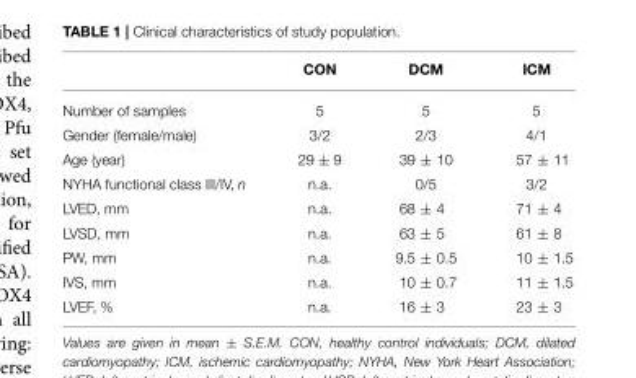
<table><thead><tr><td></td><td>CON</td><td>DCM</td><td>ICM</td></tr></thead><tbody><tr><td>Number of samples</td><td>5</td><td>5</td><td>5</td></tr><tr><td>Gender (female/male)</td><td>3/2</td><td>2/3</td><td>4/1</td></tr><tr><td>Age (year)</td><td>29 ± 9</td><td>39 ± 10</td><td>57 ± 11</td></tr><tr><td>NYHA functional class III/IV, n</td><td>n.a.</td><td>0/5</td><td>3/2</td></tr><tr><td>LVED, mm</td><td>n.a.</td><td>68 ± 4</td><td>71 ± 4</td></tr><tr><td>LVSD, mm</td><td>n.a.</td><td>63 ± 5</td><td>61 ± 8</td></tr><tr><td>PW, mm</td><td>n.a.</td><td>9.5 ± 0.5</td><td>10 ± 1.5</td></tr><tr><td>IVS, mm</td><td>n.a.</td><td>10 ± 0.7</td><td>11 ± 1.5</td></tr><tr><td>LVEF, %</td><td>n.a.</td><td>16 ± 3</td><td>23 ± 3</td></tr></tbody></table>